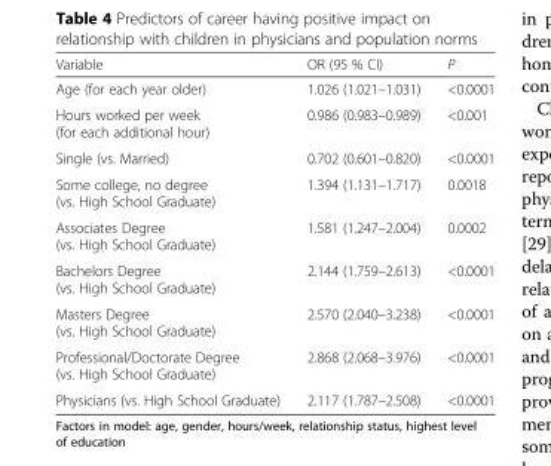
<table><thead><tr><td>Variable</td><td>OR (95 % CI)</td><td>P</td></tr></thead><tbody><tr><td>Age (for each year older)</td><td>1.026 (1.021–1.031)</td><td>&lt;0.0001</td></tr><tr><td>Hours worked per week (for each additional hour)</td><td>0.986 (0.983–0.989)</td><td>&lt;0.001</td></tr><tr><td>Single (vs. Married)</td><td>0.702 (0.601–0.820)</td><td>&lt;0.0001</td></tr><tr><td>Some college, no degree (vs. High School Graduate)</td><td>1.394 (1.131–1.717)</td><td>0.0018</td></tr><tr><td>Associates Degree (vs. High School Graduate)</td><td>1.581 (1.247–2.004)</td><td>0.0002</td></tr><tr><td>Bachelors Degree (vs. High School Graduate)</td><td>2.144 (1.759–2.613)</td><td>&lt;0.0001</td></tr><tr><td>Masters Degree (vs. High School Graduate)</td><td>2.570 (2.040–3.238)</td><td>&lt;0.0001</td></tr><tr><td>Professional/Doctorate Degree (vs. High School Graduate)</td><td>2.868 (2.068–3.976)</td><td>&lt;0.0001</td></tr><tr><td>Physicians (vs. High School Graduate)</td><td>2.117 (1.787–2.508)</td><td>&lt;0.0001</td></tr></tbody></table>